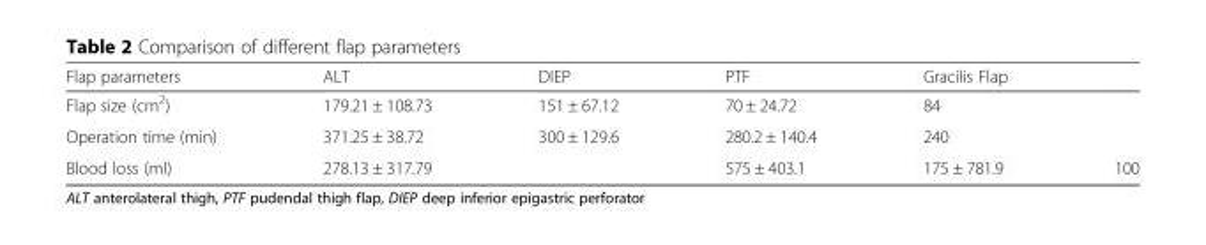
<table><thead><tr><td>Flap parameters</td><td>ALT</td><td>DIEP</td><td>PTF</td><td>Gracilis Flap</td><td></td></tr></thead><tbody><tr><td>Flap size (cm<sup>2</sup>)</td><td>179.21 ± 108.73</td><td>151 ± 67.12</td><td>70 ± 24.72</td><td>84</td><td></td></tr><tr><td>Operation time (min)</td><td>371.25 ± 38.72</td><td>300 ± 129.6</td><td>280.2 ± 140.4</td><td>240</td><td></td></tr><tr><td>Blood loss (ml)</td><td>278.13 ± 317.79</td><td></td><td>575 ± 403.1</td><td>175 ± 781.9</td><td>100</td></tr></tbody></table>